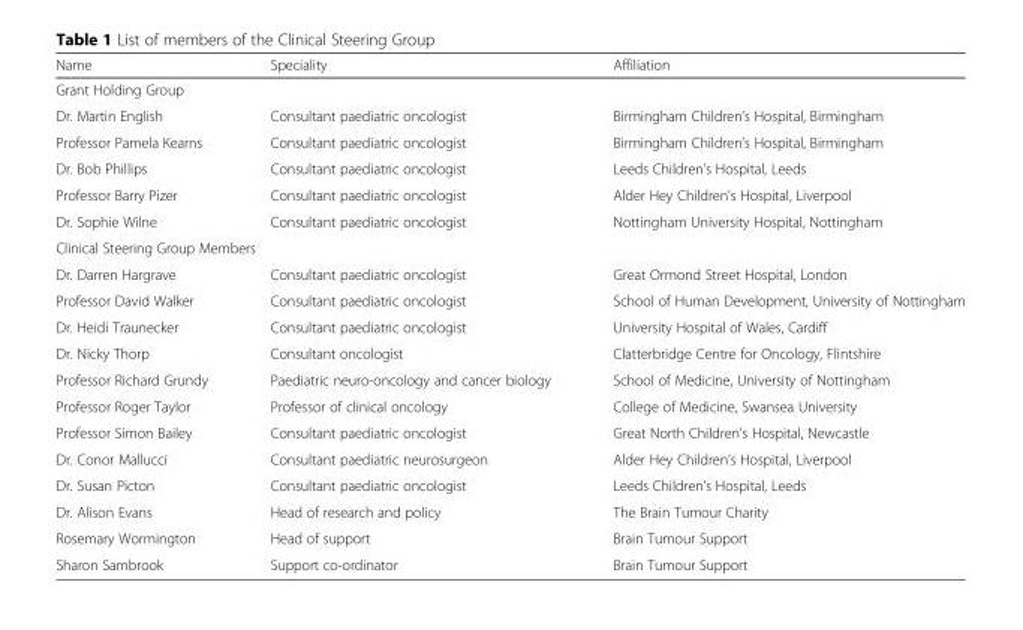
<table><thead><tr><td>Name</td><td>Speciality</td><td>Affiliation</td></tr></thead><tbody><tr><td colspan="3">Grant Holding Group</td></tr><tr><td>Dr. Martin English</td><td>Consultant paediatric oncologist</td><td>Birmingham Children’s Hospital, Birmingham</td></tr><tr><td>Professor Pamela Kearns</td><td>Consultant paediatric oncologist</td><td>Birmingham Children’s Hospital, Birmingham</td></tr><tr><td>Dr. Bob Phillips</td><td>Consultant paediatric oncologist</td><td>Leeds Children’s Hospital, Leeds</td></tr><tr><td>Professor Barry Pizer</td><td>Consultant paediatric oncologist</td><td>Alder Hey Children&#x27;s Hospital, Liverpool</td></tr><tr><td>Dr. Sophie Wilne</td><td>Consultant paediatric oncologist</td><td>Nottingham University Hospital, Nottingham</td></tr><tr><td colspan="3">Clinical Steering Group Members</td></tr><tr><td>Dr. Darren Hargrave</td><td>Consultant paediatric oncologist</td><td>Great Ormond Street Hospital, London</td></tr><tr><td>Professor David Walker</td><td>Consultant paediatric oncologist</td><td>School of Human Development, University of Nottingham</td></tr><tr><td>Dr. Heidi Traunecker</td><td>Consultant paediatric oncologist</td><td>University Hospital of Wales, Cardiff</td></tr><tr><td>Dr. Nicky Thorp</td><td>Consultant oncologist</td><td>Clatterbridge Centre for Oncology, Flintshire</td></tr><tr><td>Professor Richard Grundy</td><td>Paediatric neuro-oncology and cancer biology</td><td>School of Medicine, University of Nottingham</td></tr><tr><td>Professor Roger Taylor</td><td>Professor of clinical oncology</td><td>College of Medicine, Swansea University</td></tr><tr><td>Professor Simon Bailey</td><td>Consultant paediatric oncologist</td><td>Great North Children’s Hospital, Newcastle</td></tr><tr><td>Dr. Conor Mallucci</td><td>Consultant paediatric neurosurgeon</td><td>Alder Hey Children’s Hospital, Liverpool</td></tr><tr><td>Dr. Susan Picton</td><td>Consultant paediatric oncologist</td><td>Leeds Children’s Hospital, Leeds</td></tr><tr><td>Dr. Alison Evans</td><td>Head of research and policy</td><td>The Brain Tumour Charity</td></tr><tr><td>Rosemary Wormington</td><td>Head of support</td><td>Brain Tumour Support</td></tr><tr><td>Sharon Sambrook</td><td>Support co-ordinator</td><td>Brain Tumour Support</td></tr></tbody></table>